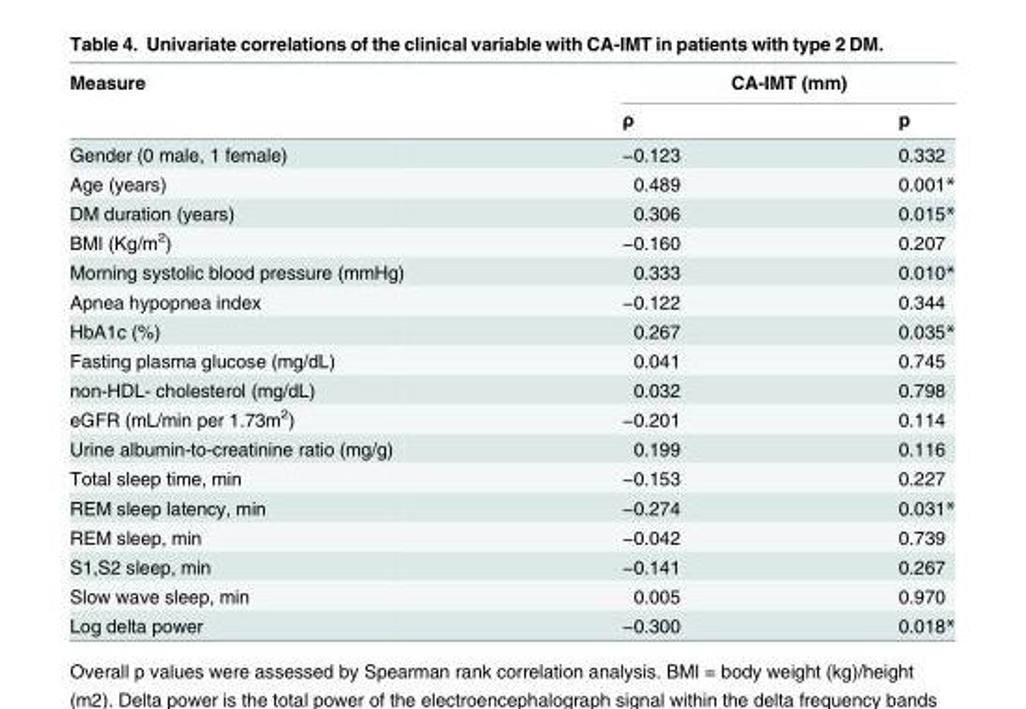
<table><thead><tr><td rowspan="2">Measure</td><td colspan="2">CA-IMT (mm)</td></tr><tr><td>ρ</td><td>p</td></tr></thead><tbody><tr><td>Gender (0 male, 1 female)</td><td>−0.123</td><td>0.332</td></tr><tr><td>Age (years)</td><td>0.489</td><td>0.001*</td></tr><tr><td>DM duration (years)</td><td>0.306</td><td>0.015*</td></tr><tr><td>BMI (Kg/m<sup>2</sup>)</td><td>−0.160</td><td>0.207</td></tr><tr><td>Morning systolic blood pressure (mmHg)</td><td>0.333</td><td>0.010*</td></tr><tr><td>Apnea hypopnea index</td><td>−0.122</td><td>0.344</td></tr><tr><td>HbA1c (%)</td><td>0.267</td><td>0.035*</td></tr><tr><td>Fasting plasma glucose (mg/dL)</td><td>0.041</td><td>0.745</td></tr><tr><td>non-HDL- cholesterol (mg/dL)</td><td>0.032</td><td>0.798</td></tr><tr><td>eGFR (mL/min per 1.73m<sup>2</sup>)</td><td>−0.201</td><td>0.114</td></tr><tr><td>Urine albumin-to-creatinine ratio (mg/g)</td><td>0.199</td><td>0.116</td></tr><tr><td>Total sleep time, min</td><td>−0.153</td><td>0.227</td></tr><tr><td>REM sleep latency, min</td><td>−0.274</td><td>0.031*</td></tr><tr><td>REM sleep, min</td><td>−0.042</td><td>0.739</td></tr><tr><td>S1,S2 sleep, min</td><td>−0.141</td><td>0.267</td></tr><tr><td>Slow wave sleep, min</td><td>0.005</td><td>0.970</td></tr><tr><td>Log delta power</td><td>−0.300</td><td>0.018*</td></tr></tbody></table>